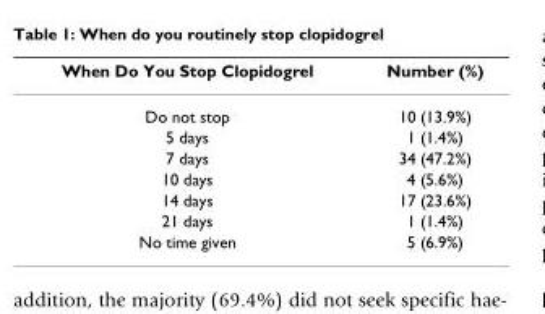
<table><thead><tr><td>When Do You Stop Clopidogrel</td><td>Number (%)</td></tr></thead><tbody><tr><td>Do not stop</td><td>10 (13.9%)</td></tr><tr><td>5 days</td><td>1 (1.4%)</td></tr><tr><td>7 days</td><td>34 (47.2%)</td></tr><tr><td>10 days</td><td>4 (5.6%)</td></tr><tr><td>14 days</td><td>17 (23.6%)</td></tr><tr><td>21 days</td><td>1 (1.4%)</td></tr><tr><td>No time given</td><td>5 (6.9%)</td></tr></tbody></table>